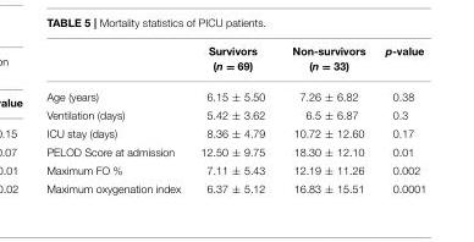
<table><thead><tr><td></td><td>Survivors (n = 69)</td><td>Non-survivors (n = 33)</td><td>p-value</td></tr></thead><tbody><tr><td>Age (years)</td><td>6.15 ± 5.50</td><td>7.26 ± 6.82</td><td>0.38</td></tr><tr><td>Ventilation (days)</td><td>5.42 ± 3.62</td><td>6.5 ± 6.87</td><td>0.3</td></tr><tr><td>ICU stay (days)</td><td>8.36 ± 4.79</td><td>10.72 ± 12.60</td><td>0.17</td></tr><tr><td>PELOD Score at admission</td><td>12.50 ± 9.75</td><td>18.30 ± 12.10</td><td>0.01</td></tr><tr><td>Maximum FO %</td><td>7.11 ± 5.43</td><td>12.19 ± 11.26</td><td>0.002</td></tr><tr><td>Maximum oxygenation index</td><td>6.37 ± 5.12</td><td>16.83 ± 15.51</td><td>0.0001</td></tr></tbody></table>